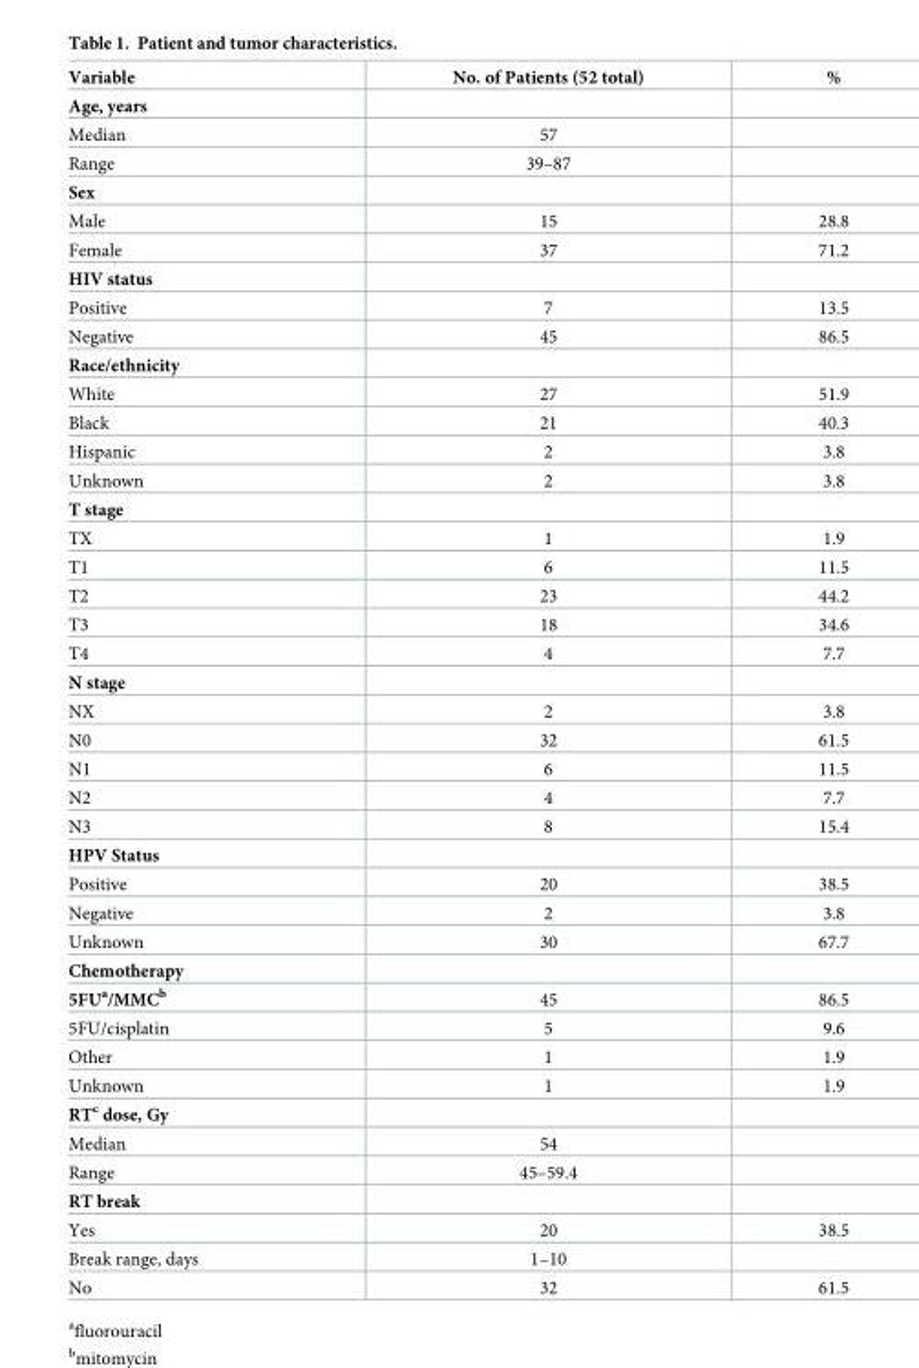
<table><thead><tr><td>Variable</td><td>No. of Patients (52 total)</td><td>%</td></tr></thead><tbody><tr><td colspan="3">Age, years</td></tr><tr><td>Median</td><td>57</td><td></td></tr><tr><td>Range</td><td>39–87</td><td></td></tr><tr><td colspan="3">Sex</td></tr><tr><td>Male</td><td>15</td><td>28.8</td></tr><tr><td>Female</td><td>37</td><td>71.2</td></tr><tr><td colspan="3">HIV status</td></tr><tr><td>Positive</td><td>7</td><td>13.5</td></tr><tr><td>Negative</td><td>45</td><td>86.5</td></tr><tr><td colspan="3">Race/ethnicity</td></tr><tr><td>White</td><td>27</td><td>51.9</td></tr><tr><td>Black</td><td>21</td><td>40.3</td></tr><tr><td>Hispanic</td><td>2</td><td>3.8</td></tr><tr><td>Unknown</td><td>2</td><td>3.8</td></tr><tr><td colspan="3">T stage</td></tr><tr><td>TX</td><td>1</td><td>1.9</td></tr><tr><td>T1</td><td>6</td><td>11.5</td></tr><tr><td>T2</td><td>23</td><td>44.2</td></tr><tr><td>T3</td><td>18</td><td>34.6</td></tr><tr><td>T4</td><td>4</td><td>7.7</td></tr><tr><td colspan="3">N stage</td></tr><tr><td>NX</td><td>2</td><td>3.8</td></tr><tr><td>N0</td><td>32</td><td>61.5</td></tr><tr><td>N1</td><td>6</td><td>11.5</td></tr><tr><td>N2</td><td>4</td><td>7.7</td></tr><tr><td>N3</td><td>8</td><td>15.4</td></tr><tr><td colspan="3">HPV Status</td></tr><tr><td>Positive</td><td>20</td><td>38.5</td></tr><tr><td>Negative</td><td>2</td><td>3.8</td></tr><tr><td>Unknown</td><td>30</td><td>67.7</td></tr><tr><td colspan="3">Chemotherapy</td></tr><tr><td>5FU<sup>a</sup>/MMC<sup>b</sup></td><td>45</td><td>86.5</td></tr><tr><td>5FU/cisplatin</td><td>5</td><td>9.6</td></tr><tr><td>Other</td><td>1</td><td>1.9</td></tr><tr><td>Unknown</td><td>1</td><td>1.9</td></tr><tr><td colspan="3">RT<sup>c</sup> dose, Gy</td></tr><tr><td>Median</td><td>54</td><td></td></tr><tr><td>Range</td><td>45–59.4</td><td></td></tr><tr><td colspan="3">RT break</td></tr><tr><td>Yes</td><td>20</td><td>38.5</td></tr><tr><td>Break range, days</td><td>1–10</td><td></td></tr><tr><td>No</td><td>32</td><td>61.5</td></tr></tbody></table>